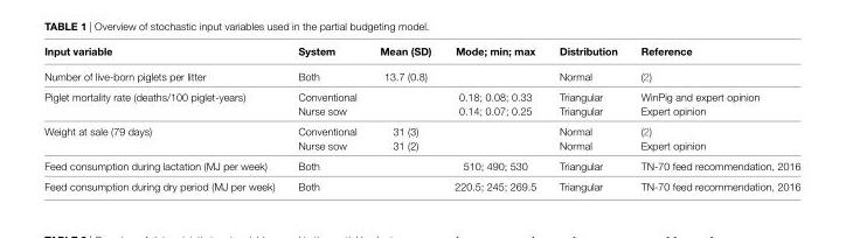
<table><thead><tr><td>input variable</td><td>system</td><td>Mean (sD)</td><td>Mode; min; max</td><td>Distribution</td><td>reference</td></tr></thead><tbody><tr><td>Number of live-born piglets per litter</td><td>Both</td><td>13.7 (0.8)</td><td></td><td>Normal</td><td>(2)</td></tr><tr><td rowspan="2">Piglet mortality rate (deaths/100 piglet-years)</td><td>Conventional</td><td></td><td>0.18; 0.08; 0.33</td><td>Triangular</td><td>WinPig and expert opinion</td></tr><tr><td>Nurse sow</td><td></td><td>0.14; 0.07; 0.25</td><td>Triangular</td><td>Expert opinion</td></tr><tr><td rowspan="2">Weight at sale (79 days)</td><td>Conventional</td><td>31 (3)</td><td></td><td>Normal</td><td>(2)</td></tr><tr><td>Nurse sow</td><td>31 (2)</td><td></td><td>Normal</td><td>Expert opinion</td></tr><tr><td>Feed consumption during lactation (MJ per week)</td><td>Both</td><td></td><td>510; 490; 530</td><td>Triangular</td><td>TN-70 feed recommendation, 2016</td></tr><tr><td>Feed consumption during dry period (MJ per week)</td><td>Both</td><td></td><td>220.5; 245; 269.5</td><td>Triangular</td><td>TN-70 feed recommendation, 2016</td></tr></tbody></table>